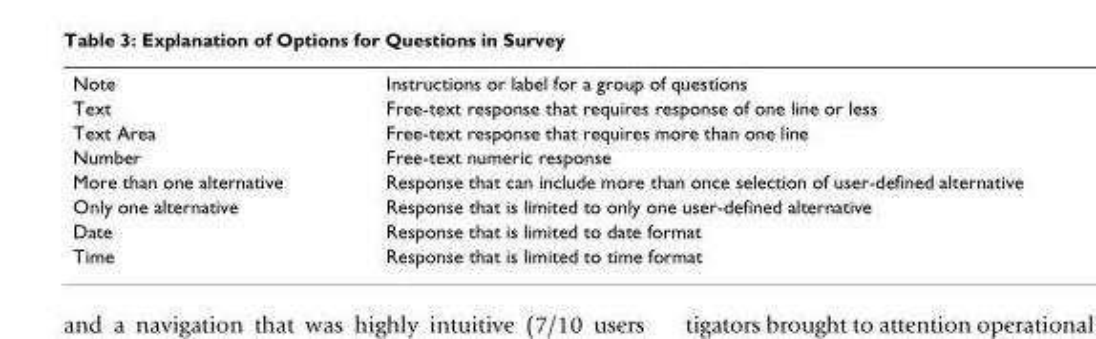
<table><tbody><tr><td>Note</td><td>Instructions or label for a group of questions</td></tr><tr><td>Text</td><td>Free-text response that requires response of one line or less</td></tr><tr><td>Text Area</td><td>Free-text response that requires more than one line</td></tr><tr><td>Number</td><td>Free-text numeric response</td></tr><tr><td>More than one alternative</td><td>Response that can include more than once selection of user-defined alternative</td></tr><tr><td>Only one alternative</td><td>Response that is limited to only one user-defined alternative</td></tr><tr><td>Date</td><td>Response that is limited to date format</td></tr><tr><td>Time</td><td>Response that is limited to time format</td></tr></tbody></table>